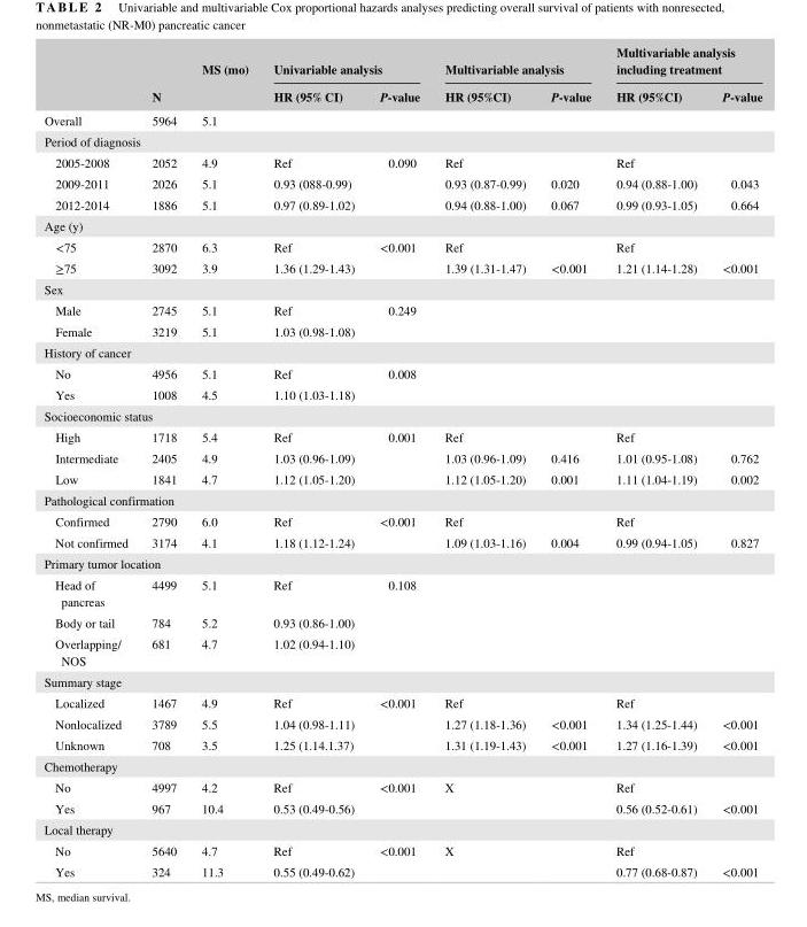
<table><thead><tr><td rowspan="2"></td><td rowspan="2">N</td><td rowspan="2">MS (mo)</td><td colspan="2">Univariable analysis</td><td colspan="2">Multivariable analysis</td><td colspan="2">Multivariable analysis including treatment</td></tr><tr><td>HR (95% CI)</td><td>P- value</td><td>HR (95%CI)</td><td>P- value</td><td>HR (95%CI)</td><td>P- value</td></tr></thead><tbody><tr><td>Overall</td><td>5964</td><td>5.1</td><td></td><td></td><td></td><td></td><td></td><td></td></tr><tr><td colspan="9">Period of diagnosis</td></tr><tr><td>2005- 2008</td><td>2052</td><td>4.9</td><td>Ref</td><td rowspan="3">0.090</td><td>Ref</td><td></td><td>Ref</td><td></td></tr><tr><td>2009- 2011</td><td>2026</td><td>5.1</td><td>0.93 (088- 0.99)</td><td>0.93 (0.87- 0.99)</td><td>0.020</td><td>0.94 (0.88- 1.00)</td><td>0.043</td></tr><tr><td>2012- 2014</td><td>1886</td><td>5.1</td><td>0.97 (0.89- 1.02)</td><td>0.94 (0.88- 1.00)</td><td>0.067</td><td>0.99 (0.93- 1.05)</td><td>0.664</td></tr><tr><td colspan="9">Age (y)</td></tr><tr><td>&lt;75</td><td>2870</td><td>6.3</td><td>Ref</td><td rowspan="2">&lt;0.001</td><td>Ref</td><td></td><td>Ref</td><td></td></tr><tr><td>≥75</td><td>3092</td><td>3.9</td><td>1.36 (1.29- 1.43)</td><td>1.39 (1.31- 1.47)</td><td>&lt;0.001</td><td>1.21 (1.14- 1.28)</td><td>&lt;0.001</td></tr><tr><td colspan="9">Sex</td></tr><tr><td>Male</td><td>2745</td><td>5.1</td><td>Ref</td><td rowspan="2">0.249</td><td></td><td></td><td></td><td></td></tr><tr><td>Female</td><td>3219</td><td>5.1</td><td>1.03 (0.98- 1.08)</td><td></td><td></td><td></td><td></td></tr><tr><td colspan="9">History of cancer</td></tr><tr><td>No</td><td>4956</td><td>5.1</td><td>Ref</td><td rowspan="2">0.008</td><td></td><td></td><td></td><td></td></tr><tr><td>Yes</td><td>1008</td><td>4.5</td><td>1.10 (1.03- 1.18)</td><td></td><td></td><td></td><td></td></tr><tr><td colspan="9">Socioeconomic status</td></tr><tr><td>High</td><td>1718</td><td>5.4</td><td>Ref</td><td rowspan="3">0.001</td><td>Ref</td><td></td><td>Ref</td><td></td></tr><tr><td>Intermediate</td><td>2405</td><td>4.9</td><td>1.03 (0.96- 1.09)</td><td>1.03 (0.96- 1.09)</td><td>0.416</td><td>1.01 (0.95- 1.08)</td><td>0.762</td></tr><tr><td>Low</td><td>1841</td><td>4.7</td><td>1.12 (1.05- 1.20)</td><td>1.12 (1.05- 1.20)</td><td>0.001</td><td>1.11 (1.04- 1.19)</td><td>0.002</td></tr><tr><td colspan="9">Pathological confirmation</td></tr><tr><td>Confirmed</td><td>2790</td><td>6.0</td><td>Ref</td><td rowspan="2">&lt;0.001</td><td>Ref</td><td></td><td>Ref</td><td></td></tr><tr><td>Not confirmed</td><td>3174</td><td>4.1</td><td>1.18 (1.12- 1.24)</td><td>1.09 (1.03- 1.16)</td><td>0.004</td><td>0.99 (0.94- 1.05)</td><td>0.827</td></tr><tr><td colspan="9">Primary tumor location</td></tr><tr><td>Head of pancreas</td><td>4499</td><td>5.1</td><td>Ref</td><td rowspan="3">0.108</td><td></td><td></td><td></td><td></td></tr><tr><td>Body or tail</td><td>784</td><td>5.2</td><td>0.93 (0.86- 1.00)</td><td></td><td></td><td></td><td></td></tr><tr><td>Overlapping/ NOS</td><td>681</td><td>4.7</td><td>1.02 (0.94- 1.10)</td><td></td><td></td><td></td><td></td></tr><tr><td colspan="9">Summary stage</td></tr><tr><td>Localized</td><td>1467</td><td>4.9</td><td>Ref</td><td rowspan="3">&lt;0.001</td><td>Ref</td><td></td><td>Ref</td><td></td></tr><tr><td>Nonlocalized</td><td>3789</td><td>5.5</td><td>1.04 (0.98- 1.11)</td><td>1.27 (1.18- 1.36)</td><td>&lt;0.001</td><td>1.34 (1.25- 1.44)</td><td>&lt;0.001</td></tr><tr><td>Unknown</td><td>708</td><td>3.5</td><td>1.25 (1.14.1.37)</td><td>1.31 (1.19- 1.43)</td><td>&lt;0.001</td><td>1.27 (1.16- 1.39)</td><td>&lt;0.001</td></tr><tr><td colspan="9">Chemotherapy</td></tr><tr><td>No</td><td>4997</td><td>4.2</td><td>Ref</td><td rowspan="2">&lt;0.001</td><td>X</td><td></td><td>Ref</td><td></td></tr><tr><td>Yes</td><td>967</td><td>10.4</td><td>0.53 (0.49- 0.56)</td><td></td><td></td><td>0.56 (0.52- 0.61)</td><td>&lt;0.001</td></tr><tr><td colspan="9">Local therapy</td></tr><tr><td>No</td><td>5640</td><td>4.7</td><td>Ref</td><td rowspan="2">&lt;0.001</td><td rowspan="2">X</td><td></td><td>Ref</td><td></td></tr><tr><td>Yes</td><td>324</td><td>11.3</td><td>0.55 (0.49- 0.62)</td><td></td><td>0.77 (0.68- 0.87)</td><td>&lt;0.001</td></tr></tbody></table>